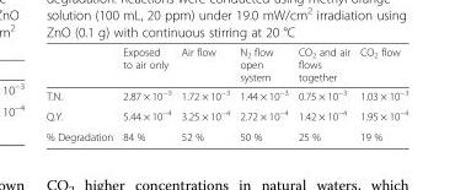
<table><thead><tr><td></td><td>Exposed to air only</td><td>Air flow</td><td>N<sub>2</sub> flow open system</td><td>CO<sub>2</sub> and air flows together</td><td>CO<sub>2</sub> flow</td></tr></thead><tbody><tr><td>T.N.</td><td>2.87 × 10<sup>−3</sup></td><td>1.72 × 10<sup>−3</sup></td><td>1.44 × 10<sup>−3</sup></td><td>0.75 × 10<sup>−3</sup></td><td>1.03 × 10<sup>−3</sup></td></tr><tr><td>Q.Y.</td><td>5.44 × 10<sup>−4</sup></td><td>3.25 × 10<sup>−4</sup></td><td>2.72 × 10<sup>−4</sup></td><td>1.42 × 10<sup>−4</sup></td><td>1.95 × 10<sup>−4</sup></td></tr><tr><td>% Degradation</td><td>84 %</td><td>52 %</td><td>50 %</td><td>25 %</td><td>19 %</td></tr></tbody></table>